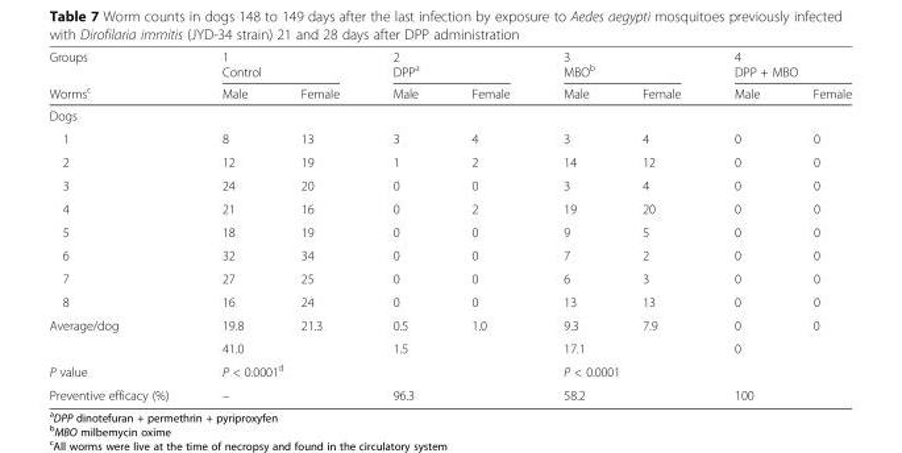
<table><thead><tr><td rowspan="2">Groups Worms<sup>c</sup></td><td colspan="2">1 Control</td><td colspan="2">2 DPP<sup>a</sup></td><td colspan="2">3 MBO<sup>b</sup></td><td colspan="2">4 DPP + MBO</td></tr><tr><td>Male</td><td>Female</td><td>Male</td><td>Female</td><td>Male</td><td>Female</td><td>Male</td><td>Female</td></tr></thead><tbody><tr><td colspan="9">Dogs</td></tr><tr><td>1</td><td>8</td><td>13</td><td>3</td><td>4</td><td>3</td><td>4</td><td>0</td><td>0</td></tr><tr><td>2</td><td>12</td><td>19</td><td>1</td><td>2</td><td>14</td><td>12</td><td>0</td><td>0</td></tr><tr><td>3</td><td>24</td><td>20</td><td>0</td><td>0</td><td>3</td><td>4</td><td>0</td><td>0</td></tr><tr><td>4</td><td>21</td><td>16</td><td>0</td><td>2</td><td>19</td><td>20</td><td>0</td><td>0</td></tr><tr><td>5</td><td>18</td><td>19</td><td>0</td><td>0</td><td>9</td><td>5</td><td>0</td><td>0</td></tr><tr><td>6</td><td>32</td><td>34</td><td>0</td><td>0</td><td>7</td><td>2</td><td>0</td><td>0</td></tr><tr><td>7</td><td>27</td><td>25</td><td>0</td><td>0</td><td>6</td><td>3</td><td>0</td><td>0</td></tr><tr><td>8</td><td>16</td><td>24</td><td>0</td><td>0</td><td>13</td><td>13</td><td>0</td><td>0</td></tr><tr><td rowspan="2">Average/dog</td><td>19.8</td><td>21.3</td><td>0.5</td><td>1.0</td><td>9.3</td><td>7.9</td><td>0</td><td>0</td></tr><tr><td colspan="2">41.0</td><td colspan="2">1.5</td><td colspan="2">17.1</td><td colspan="2">0</td></tr><tr><td>P value</td><td colspan="4">P &lt; 0.0001<sup>d</sup></td><td colspan="4">P &lt; 0.0001</td></tr><tr><td>Preventive efficacy (%)</td><td colspan="2">–</td><td colspan="2">96.3</td><td colspan="2">58.2</td><td colspan="2">100</td></tr></tbody></table>